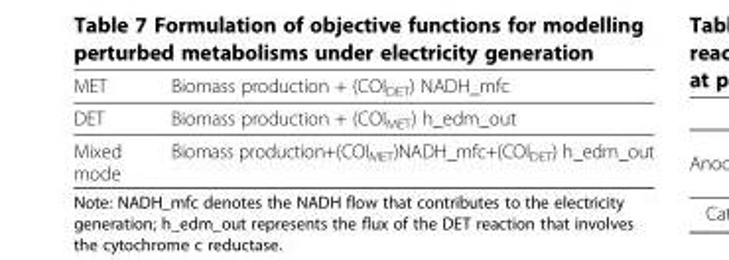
<table><thead><tr><td>MET</td><td>Biomass production + (COI<sub>DET</sub>) NADH_mfc</td></tr></thead><tbody><tr><td>DET</td><td>Biomass production + (COI<sub>MET</sub>) h_edm_out</td></tr><tr><td>Mixed mode</td><td>Biomass production+(COI<sub>MET</sub>)NADH_mfc+(COI<sub>DET</sub>) h_edm_out</td></tr></tbody></table>